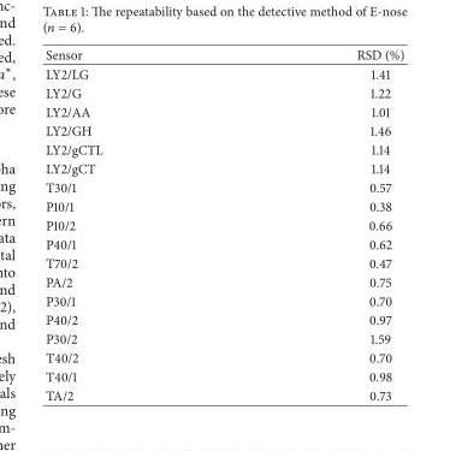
<table><thead><tr><td>Sensor</td><td>RSD (%)</td></tr></thead><tbody><tr><td>LY2/LG</td><td>1.41</td></tr><tr><td>LY2/G</td><td>1.22</td></tr><tr><td>LY2/AA</td><td>1.01</td></tr><tr><td>LY2/GH</td><td>1.46</td></tr><tr><td>LY2/gCTL</td><td>1.14</td></tr><tr><td>LY2/gCT</td><td>1.14</td></tr><tr><td>T30/1</td><td>0.57</td></tr><tr><td>P10/1</td><td>0.38</td></tr><tr><td>P10/2</td><td>0.66</td></tr><tr><td>P40/1</td><td>0.62</td></tr><tr><td>T70/2</td><td>0.47</td></tr><tr><td>PA/2</td><td>0.75</td></tr><tr><td>P30/1</td><td>0.70</td></tr><tr><td>P40/2</td><td>0.97</td></tr><tr><td>P30/2</td><td>1.59</td></tr><tr><td>T40/2</td><td>0.70</td></tr><tr><td>T40/1</td><td>0.98</td></tr><tr><td>TA/2</td><td>0.73</td></tr></tbody></table>